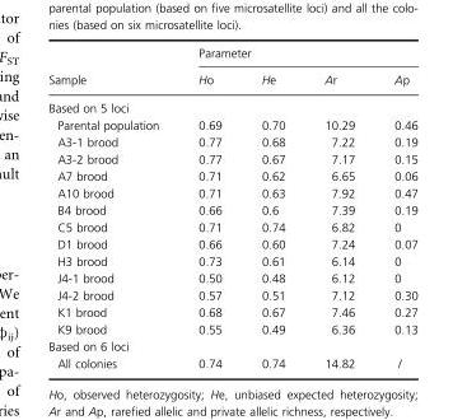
<table><thead><tr><td rowspan="2">Sample</td><td colspan="4">Parameter</td></tr><tr><td>Ho</td><td>He</td><td>Ar</td><td>Ap</td></tr></thead><tbody><tr><td colspan="5">Based on 5 loci</td></tr><tr><td>Parental population</td><td>0.69</td><td>0.70</td><td>10.29</td><td>0.46</td></tr><tr><td>A3-1 brood</td><td>0.77</td><td>0.68</td><td>7.22</td><td>0.19</td></tr><tr><td>A3-2 brood</td><td>0.77</td><td>0.67</td><td>7.17</td><td>0.15</td></tr><tr><td>A7 brood</td><td>0.71</td><td>0.62</td><td>6.65</td><td>0.06</td></tr><tr><td>A10 brood</td><td>0.71</td><td>0.63</td><td>7.92</td><td>0.47</td></tr><tr><td>B4 brood</td><td>0.66</td><td>0.6</td><td>7.39</td><td>0.19</td></tr><tr><td>C5 brood</td><td>0.71</td><td>0.74</td><td>6.82</td><td>0</td></tr><tr><td>D1 brood</td><td>0.66</td><td>0.60</td><td>7.24</td><td>0.07</td></tr><tr><td>H3 brood</td><td>0.73</td><td>0.61</td><td>6.14</td><td>0</td></tr><tr><td>J4-1 brood</td><td>0.50</td><td>0.48</td><td>6.12</td><td>0</td></tr><tr><td>J4-2 brood</td><td>0.57</td><td>0.51</td><td>7.12</td><td>0.30</td></tr><tr><td>K1 brood</td><td>0.68</td><td>0.67</td><td>7.46</td><td>0.27</td></tr><tr><td>K9 brood</td><td>0.55</td><td>0.49</td><td>6.36</td><td>0.13</td></tr><tr><td colspan="5">Based on 6 loci</td></tr><tr><td>All colonies</td><td>0.74</td><td>0.74</td><td>14.82</td><td>/</td></tr></tbody></table>